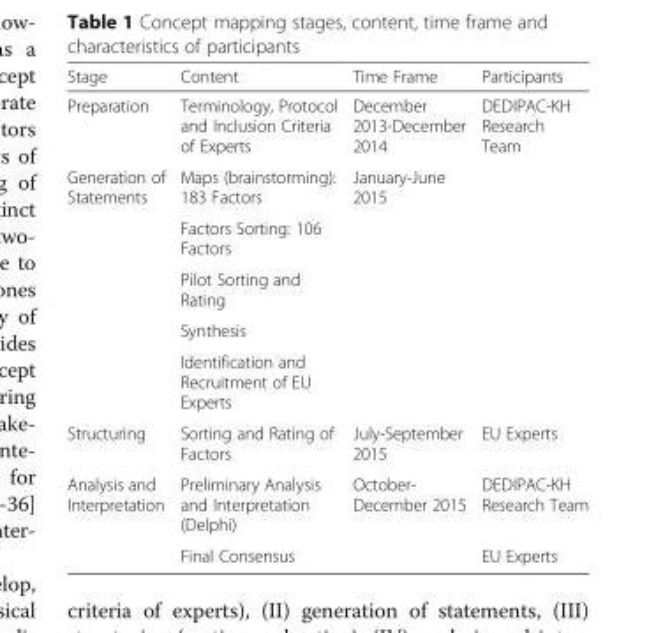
<table><thead><tr><td>Stage</td><td>Content</td><td>Time Frame</td><td>Participants</td></tr></thead><tbody><tr><td>Preparation</td><td>Terminology, Protocol and Inclusion Criteria of Experts</td><td>December 2013-December 2014</td><td rowspan="6">DEDIPAC-KH Research Team</td></tr><tr><td rowspan="5">Generation of Statements</td><td>Maps (brainstorming): 183 Factors</td><td rowspan="5">January-June 2015</td></tr><tr><td>Factors Sorting: 106 Factors</td></tr><tr><td>Pilot Sorting and Rating</td></tr><tr><td>Synthesis</td></tr><tr><td>Identification and Recruitment of EU Experts</td></tr><tr><td>Structuring</td><td>Sorting and Rating of Factors</td><td>July-September 2015</td><td>EU Experts</td></tr><tr><td rowspan="2">Analysis and Interpretation</td><td>Preliminary Analysis and Interpretation (Delphi)</td><td rowspan="2">October- December 2015</td><td>DEDIPAC-KH Research Team</td></tr><tr><td>Final Consensus</td><td>EU Experts</td></tr></tbody></table>